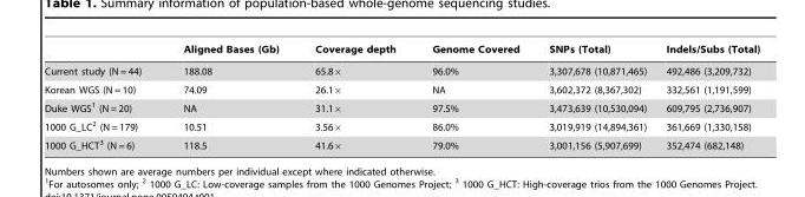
<table><thead><tr><td></td><td>Aligned Bases (Gb)</td><td>Coverage depth</td><td>Genome Covered</td><td>SNPs (Total)</td><td>Indels/Subs (Total)</td></tr></thead><tbody><tr><td>Current study (N = 44)</td><td>188.08</td><td>65.8×</td><td>96.0%</td><td>3,307,678 (10,871,465)</td><td>492,486 (3,209,732)</td></tr><tr><td>Korean WGS (N = 10)</td><td>74.09</td><td>26.1×</td><td>NA</td><td>3,602,372 (8,367,302)</td><td>332,561 (1,191,599)</td></tr><tr><td>Duke WGS<sup>1</sup> (N = 20)</td><td>NA</td><td>31.1×</td><td>97.5%</td><td>3,473,639 (10,530,094)</td><td>609,795 (2,736,907)</td></tr><tr><td>1000 G_LC<sup>2</sup> (N = 179)</td><td>10.51</td><td>3.56×</td><td>86.0%</td><td>3,019,919 (14,894,361)</td><td>361,669 (1,330,158)</td></tr><tr><td>1000 G_HCT<sup>3</sup> (N = 6)</td><td>118.5</td><td>41.6×</td><td>79.0%</td><td>3,001,156 (5,907,699)</td><td>352,474 (682,148)</td></tr></tbody></table>